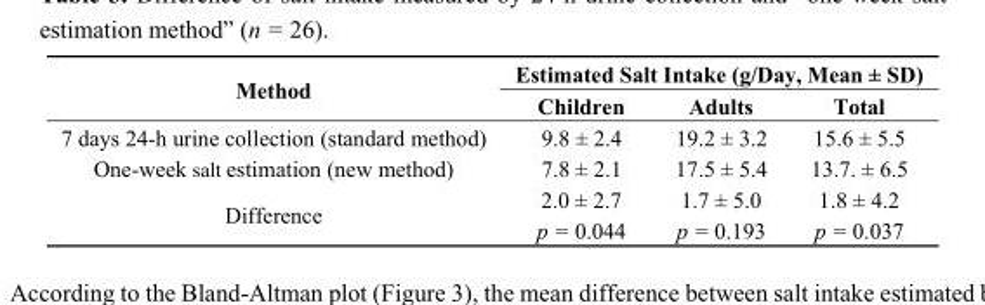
<table><thead><tr><td rowspan="2">Method</td><td colspan="3">Estimated Salt Intake (g/Day, Mean ± SD)</td></tr><tr><td>Children</td><td>Adults</td><td>Total</td></tr></thead><tbody><tr><td>7 days 24-h urine collection (standard method)</td><td>9.8 ± 2.4</td><td>19.2 ± 3.2</td><td>15.6 ± 5.5</td></tr><tr><td>One-week salt estimation (new method)</td><td>7.8 ± 2.1</td><td>17.5 ± 5.4</td><td>13.7. ± 6.5</td></tr><tr><td rowspan="2">Difference</td><td>2.0 ± 2.7</td><td>1.7 ± 5.0</td><td>1.8 ± 4.2</td></tr><tr><td>p = 0.044</td><td>p = 0.193</td><td>p = 0.037</td></tr></tbody></table>